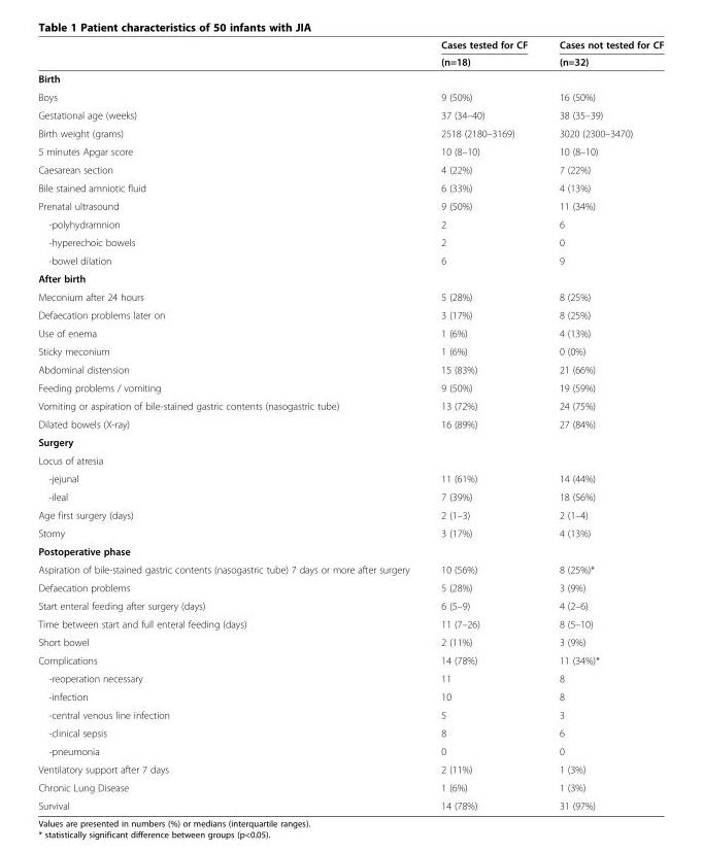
<table><thead><tr><td rowspan="2"></td><td rowspan="2">Cases tested for CF (n=18)</td><td rowspan="2">Cases not tested for CF (n=32)</td></tr><tr></tr></thead><tbody><tr><td colspan="3">Birth</td></tr><tr><td>Boys</td><td>9 (50%)</td><td>16 (50%)</td></tr><tr><td>Gestational age (weeks)</td><td>37 (34–40)</td><td>38 (35–39)</td></tr><tr><td>Birth weight (grams)</td><td>2518 (2180–3169)</td><td>3020 (2300–3470)</td></tr><tr><td>5 minutes Apgar score</td><td>10 (8–10)</td><td>10 (8–10)</td></tr><tr><td>Caesarean section</td><td>4 (22%)</td><td>7 (22%)</td></tr><tr><td>Bile stained amniotic fluid</td><td>6 (33%)</td><td>4 (13%)</td></tr><tr><td>Prenatal ultrasound</td><td>9 (50%)</td><td>11 (34%)</td></tr><tr><td>-polyhydramnion</td><td>2</td><td>6</td></tr><tr><td>-hyperechoic bowels</td><td>2</td><td>0</td></tr><tr><td>-bowel dilation</td><td>6</td><td>9</td></tr><tr><td colspan="3">After birth</td></tr><tr><td>Meconium after 24 hours</td><td>5 (28%)</td><td>8 (25%)</td></tr><tr><td>Defaecation problems later on</td><td>3 (17%)</td><td>8 (25%)</td></tr><tr><td>Use of enema</td><td>1 (6%)</td><td>4 (13%)</td></tr><tr><td>Sticky meconium</td><td>1 (6%)</td><td>0 (0%)</td></tr><tr><td>Abdominal distension</td><td>15 (83%)</td><td>21 (66%)</td></tr><tr><td>Feeding problems / vomiting</td><td>9 (50%)</td><td>19 (59%)</td></tr><tr><td>Vomiting or aspiration of bile-stained gastric contents (nasogastric tube)</td><td>13 (72%)</td><td>24 (75%)</td></tr><tr><td>Dilated bowels (X-ray)</td><td>16 (89%)</td><td>27 (84%)</td></tr><tr><td colspan="3">Surgery</td></tr><tr><td colspan="3">Locus of atresia</td></tr><tr><td>-jejunal</td><td>11 (61%)</td><td>14 (44%)</td></tr><tr><td>-ileal</td><td>7 (39%)</td><td>18 (56%)</td></tr><tr><td>Age first surgery (days)</td><td>2 (1–3)</td><td>2 (1–4)</td></tr><tr><td>Stomy</td><td>3 (17%)</td><td>4 (13%)</td></tr><tr><td colspan="3">Postoperative phase</td></tr><tr><td>Aspiration of bile-stained gastric contents (nasogastric tube) 7 days or more after surgery</td><td>10 (56%)</td><td>8 (25%)*</td></tr><tr><td>Defaecation problems</td><td>5 (28%)</td><td>3 (9%)</td></tr><tr><td>Start enteral feeding after surgery (days)</td><td>6 (5–9)</td><td>4 (2–6)</td></tr><tr><td>Time between start and full enteral feeding (days)</td><td>11 (7–26)</td><td>8 (5–10)</td></tr><tr><td>Short bowel</td><td>2 (11%)</td><td>3 (9%)</td></tr><tr><td>Complications</td><td>14 (78%)</td><td>11 (34%)*</td></tr><tr><td>-reoperation necessary</td><td>11</td><td>8</td></tr><tr><td>-infection</td><td>10</td><td>8</td></tr><tr><td>-central venous line infection</td><td>5</td><td>3</td></tr><tr><td>-clinical sepsis</td><td>8</td><td>6</td></tr><tr><td>-pneumonia</td><td>0</td><td>0</td></tr><tr><td>Ventilatory support after 7 days</td><td>2 (11%)</td><td>1 (3%)</td></tr><tr><td>Chronic Lung Disease</td><td>1 (6%)</td><td>1 (3%)</td></tr><tr><td>Survival</td><td>14 (78%)</td><td>31 (97%)</td></tr></tbody></table>